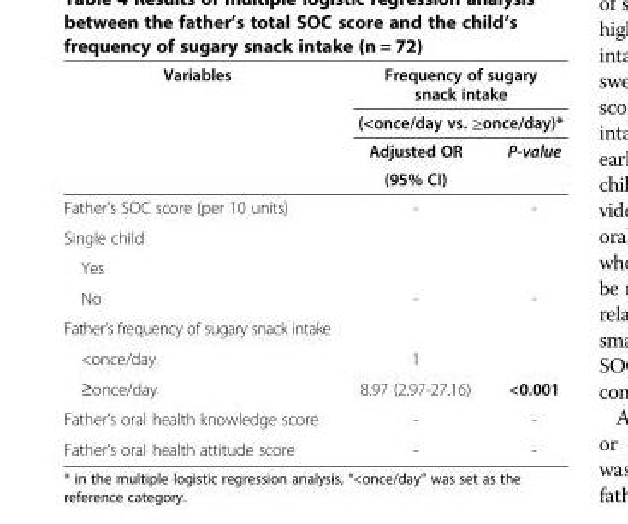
<table><thead><tr><td rowspan="4">Variables</td><td rowspan="2" colspan="2">Frequency of sugary snack intake (&lt;once/day vs. ≥once/day)*</td></tr><tr></tr><tr><td rowspan="2">Adjusted OR (95% CI)</td><td rowspan="2">P-value</td></tr><tr></tr></thead><tbody><tr><td>Father’s SOC score (per 10 units)</td><td>-</td><td>-</td></tr><tr><td colspan="3">Single child</td></tr><tr><td colspan="3">Yes</td></tr><tr><td>No</td><td>-</td><td>-</td></tr><tr><td colspan="3">Father’s frequency of sugary snack intake</td></tr><tr><td>&lt;once/day</td><td>1</td><td></td></tr><tr><td>≥once/day</td><td>8.97 (2.97-27.16)</td><td>&lt;0.001</td></tr><tr><td>Father’s oral health knowledge score</td><td>-</td><td>-</td></tr><tr><td>Father’s oral health attitude score</td><td>-</td><td>-</td></tr></tbody></table>